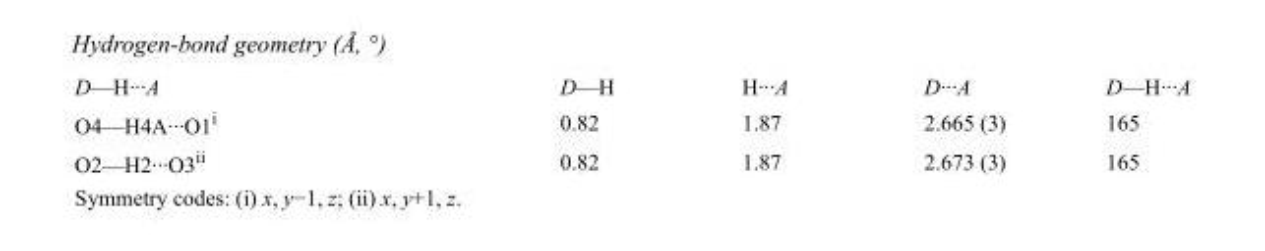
<table><tbody><tr><td>D—H···A</td><td>D—H</td><td>H···A</td><td>D···A</td><td>D—H···A</td></tr><tr><td>O4—H4A···O1<sup>i</sup></td><td>0.82</td><td>1.87</td><td>2.665 (3)</td><td>165</td></tr><tr><td>O2—H2···O3<sup>ii</sup></td><td>0.82</td><td>1.87</td><td>2.673 (3)</td><td>165</td></tr></tbody></table>